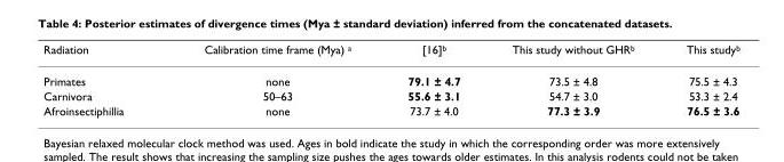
<table><thead><tr><td>Radiation</td><td>Calibration time frame (Mya) <sup>a</sup></td><td>[16]<sup>b</sup></td><td>This study without GHR<sup>b</sup></td><td>This study<sup>b</sup></td></tr></thead><tbody><tr><td>Primates</td><td>none</td><td>79.1 ± 4.7</td><td>73.5 ± 4.8</td><td>75.5 ± 4.3</td></tr><tr><td>Carnivora</td><td>50–63</td><td>55.6 ± 3.1</td><td>54.7 ± 3.0</td><td>53.3 ± 2.4</td></tr><tr><td>Afroinsectiphillia</td><td>none</td><td>73.7 ± 4.0</td><td>77.3 ± 3.9</td><td>76.5 ± 3.6</td></tr></tbody></table>